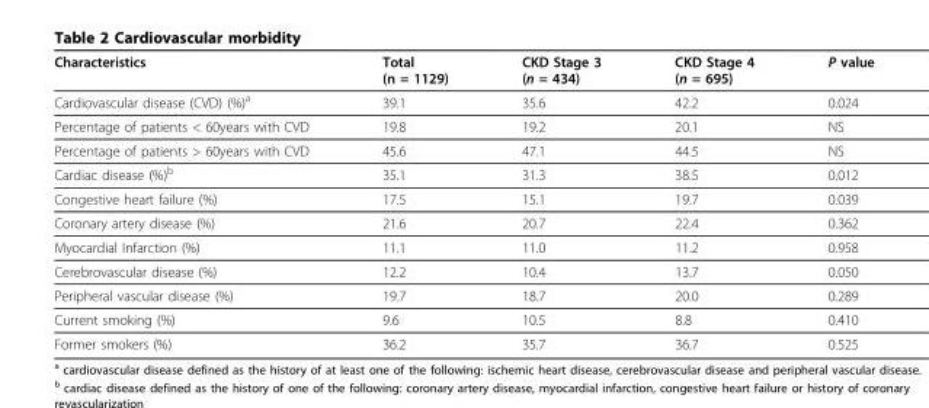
<table><thead><tr><td>Characteristics</td><td>Total (n = 1129)</td><td>CKD Stage 3 (n = 434)</td><td>CKD Stage 4 (n = 695)</td><td>P value</td></tr></thead><tbody><tr><td>Cardiovascular disease (CVD) (%)<sup>a</sup></td><td>39.1</td><td>35.6</td><td>42.2</td><td>0.024</td></tr><tr><td>Percentage of patients &lt; 60years with CVD</td><td>19.8</td><td>19.2</td><td>20.1</td><td>NS</td></tr><tr><td>Percentage of patients &gt; 60years with CVD</td><td>45.6</td><td>47.1</td><td>44.5</td><td>NS</td></tr><tr><td>Cardiac disease (%)<sup>b</sup></td><td>35.1</td><td>31.3</td><td>38.5</td><td>0.012</td></tr><tr><td>Congestive heart failure (%)</td><td>17.5</td><td>15.1</td><td>19.7</td><td>0.039</td></tr><tr><td>Coronary artery disease (%)</td><td>21.6</td><td>20.7</td><td>22.4</td><td>0.362</td></tr><tr><td>Myocardial Infarction (%)</td><td>11.1</td><td>11.0</td><td>11.2</td><td>0.958</td></tr><tr><td>Cerebrovascular disease (%)</td><td>12.2</td><td>10.4</td><td>13.7</td><td>0.050</td></tr><tr><td>Peripheral vascular disease (%)</td><td>19.7</td><td>18.7</td><td>20.0</td><td>0.289</td></tr><tr><td>Current smoking (%)</td><td>9.6</td><td>10.5</td><td>8.8</td><td>0.410</td></tr><tr><td>Former smokers (%)</td><td>36.2</td><td>35.7</td><td>36.7</td><td>0.525</td></tr></tbody></table>